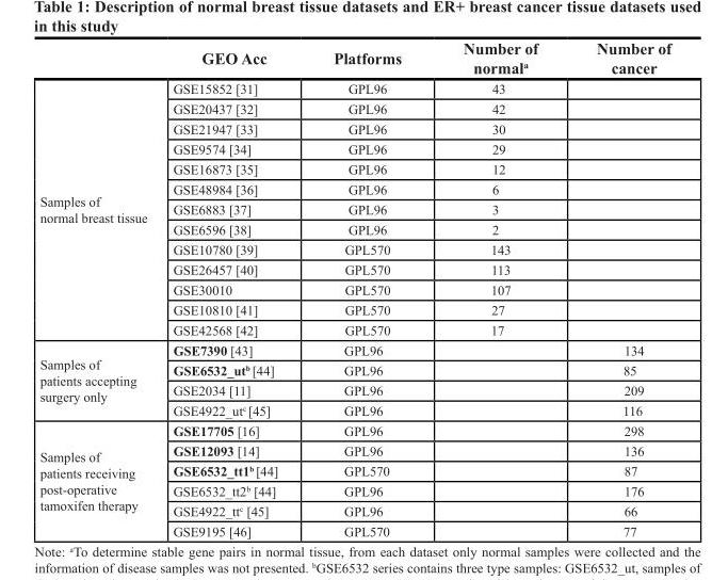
<table><thead><tr><td></td><td>GEO Acc</td><td>Platforms</td><td>Number of normal<sup>a</sup></td><td>Number of cancer</td></tr></thead><tbody><tr><td rowspan="13">Samples of normal breast tissue</td><td>GSE15852 [31]</td><td>GPL96</td><td>43</td><td></td></tr><tr><td>GSE20437 [32]</td><td>GPL96</td><td>42</td><td></td></tr><tr><td>GSE21947 [33]</td><td>GPL96</td><td>30</td><td></td></tr><tr><td>GSE9574 [34]</td><td>GPL96</td><td>29</td><td></td></tr><tr><td>GSE16873 [35]</td><td>GPL96</td><td>12</td><td></td></tr><tr><td>GSE48984 [36]</td><td>GPL96</td><td>6</td><td></td></tr><tr><td>GSE6883 [37]</td><td>GPL96</td><td>3</td><td></td></tr><tr><td>GSE6596 [38]</td><td>GPL96</td><td>2</td><td></td></tr><tr><td>GSE10780 [39]</td><td>GPL570</td><td>143</td><td></td></tr><tr><td>GSE26457 [40]</td><td>GPL570</td><td>113</td><td></td></tr><tr><td>GSE30010</td><td>GPL570</td><td>107</td><td></td></tr><tr><td>GSE10810 [41]</td><td>GPL570</td><td>27</td><td></td></tr><tr><td>GSE42568 [42]</td><td>GPL570</td><td>17</td><td></td></tr><tr><td rowspan="4">Samples of patients accepting surgery only</td><td>GSE7390 [43]</td><td>GPL96</td><td></td><td>134</td></tr><tr><td>GSE6532_ut<sup>b</sup> [44]</td><td>GPL96</td><td></td><td>85</td></tr><tr><td>GSE2034 [11]</td><td>GPL96</td><td></td><td>209</td></tr><tr><td>GSE4922_ut<sup>c</sup> [45]</td><td>GPL96</td><td></td><td>116</td></tr><tr><td rowspan="6">Samples of patients receiving post-operative tamoxifen therapy</td><td>GSE17705 [16]</td><td>GPL96</td><td></td><td>298</td></tr><tr><td>GSE12093 [14]</td><td>GPL96</td><td></td><td>136</td></tr><tr><td>GSE6532_tt1<sup>b</sup> [44]</td><td>GPL570</td><td></td><td>87</td></tr><tr><td>GSE6532_tt2<sup>b</sup> [44]</td><td>GPL96</td><td></td><td>176</td></tr><tr><td>GSE4922_tt<sup>c</sup> [45]</td><td>GPL96</td><td></td><td>66</td></tr><tr><td>GSE9195 [46]</td><td>GPL570</td><td></td><td>77</td></tr></tbody></table>